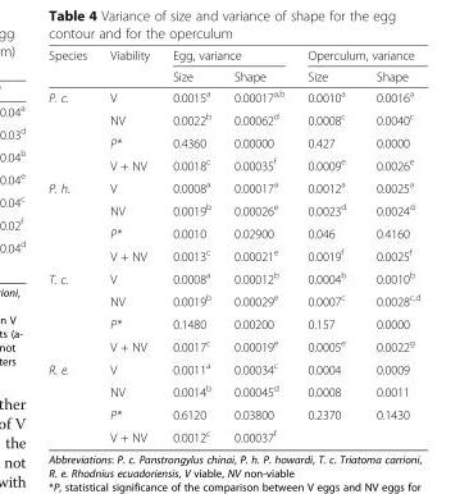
<table><thead><tr><td rowspan="2">Species</td><td rowspan="2">Viability</td><td colspan="2">Egg, variance</td><td colspan="2">Operculum, variance</td></tr><tr><td>Size</td><td>Shape</td><td>Size</td><td>Shape</td></tr></thead><tbody><tr><td rowspan="4">P. c.</td><td>V</td><td>0.0015<sup>a</sup></td><td>0.00017<sup>a,b</sup></td><td>0.0010<sup>a</sup></td><td>0.0016<sup>a</sup></td></tr><tr><td>NV</td><td>0.0022<sup>b</sup></td><td>0.00062<sup>d</sup></td><td>0.0008<sup>c</sup></td><td>0.0040<sup>c</sup></td></tr><tr><td>P*</td><td>0.4360</td><td>0.00000</td><td>0.427</td><td>0.0000</td></tr><tr><td>V + NV</td><td>0.0018<sup>c</sup></td><td>0.00035<sup>f</sup></td><td>0.0009<sup>e</sup></td><td>0.0026<sup>e</sup></td></tr><tr><td rowspan="4">P. h.</td><td>V</td><td>0.0008<sup>a</sup></td><td>0.00017<sup>a</sup></td><td>0.0012<sup>a</sup></td><td>0.0025<sup>a</sup></td></tr><tr><td>NV</td><td>0.0019<sup>b</sup></td><td>0.00026<sup>e</sup></td><td>0.0023<sup>d</sup></td><td>0.0024<sup>d</sup></td></tr><tr><td>P*</td><td>0.0010</td><td>0.02900</td><td>0.046</td><td>0.4160</td></tr><tr><td>V + NV</td><td>0.0013<sup>c</sup></td><td>0.00021<sup>e</sup></td><td>0.0019<sup>f</sup></td><td>0.0025<sup>f</sup></td></tr><tr><td rowspan="4">T. c.</td><td>V</td><td>0.0008<sup>a</sup></td><td>0.00012<sup>b</sup></td><td>0.0004<sup>b</sup></td><td>0.0010<sup>b</sup></td></tr><tr><td>NV</td><td>0.0019<sup>b</sup></td><td>0.00029<sup>e</sup></td><td>0.0007<sup>c</sup></td><td>0.0028<sup>c,d</sup></td></tr><tr><td>P*</td><td>0.1480</td><td>0.00200</td><td>0.157</td><td>0.0000</td></tr><tr><td>V + NV</td><td>0.0017<sup>c</sup></td><td>0.00019<sup>e</sup></td><td>0.0005<sup>e</sup></td><td>0.0022<sup>g</sup></td></tr><tr><td rowspan="4">R. e.</td><td>V</td><td>0.0011<sup>a</sup></td><td>0.00034<sup>c</sup></td><td>0.0004</td><td>0.0009</td></tr><tr><td>NV</td><td>0.0014<sup>b</sup></td><td>0.00045<sup>d</sup></td><td>0.0008</td><td>0.0011</td></tr><tr><td>P*</td><td>0.6120</td><td>0.03800</td><td>0.2370</td><td>0.1430</td></tr><tr><td>V + NV</td><td>0.0012<sup>c</sup></td><td>0.00037<sup>f</sup></td><td></td><td></td></tr></tbody></table>